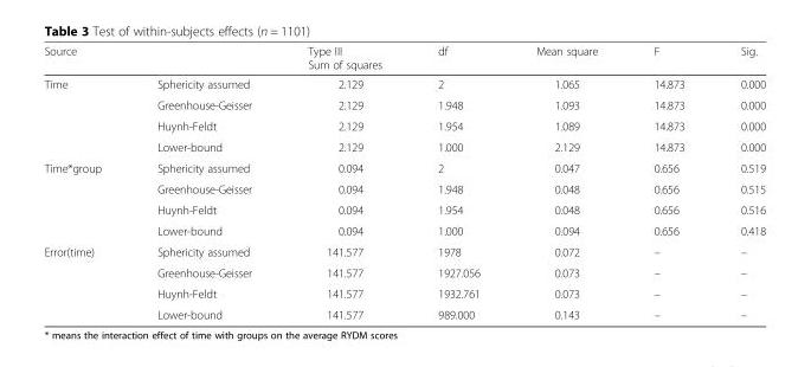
<table><thead><tr><td>Source</td><td></td><td>Type III Sum of squares</td><td>df</td><td>Mean square</td><td>F</td><td>Sig.</td></tr></thead><tbody><tr><td rowspan="4">Time</td><td>Sphericity assumed</td><td>2.129</td><td>2</td><td>1.065</td><td>14.873</td><td>0.000</td></tr><tr><td>Greenhouse-Geisser</td><td>2.129</td><td>1.948</td><td>1.093</td><td>14.873</td><td>0.000</td></tr><tr><td>Huynh-Feldt</td><td>2.129</td><td>1.954</td><td>1.089</td><td>14.873</td><td>0.000</td></tr><tr><td>Lower-bound</td><td>2.129</td><td>1.000</td><td>2.129</td><td>14.873</td><td>0.000</td></tr><tr><td rowspan="4">Time*group</td><td>Sphericity assumed</td><td>0.094</td><td>2</td><td>0.047</td><td>0.656</td><td>0.519</td></tr><tr><td>Greenhouse-Geisser</td><td>0.094</td><td>1.948</td><td>0.048</td><td>0.656</td><td>0.515</td></tr><tr><td>Huynh-Feldt</td><td>0.094</td><td>1.954</td><td>0.048</td><td>0.656</td><td>0.516</td></tr><tr><td>Lower-bound</td><td>0.094</td><td>1.000</td><td>0.094</td><td>0.656</td><td>0.418</td></tr><tr><td rowspan="4">Error(time)</td><td>Sphericity assumed</td><td>141.577</td><td>1978</td><td>0.072</td><td>–</td><td>–</td></tr><tr><td>Greenhouse-Geisser</td><td>141.577</td><td>1927.056</td><td>0.073</td><td>–</td><td>–</td></tr><tr><td>Huynh-Feldt</td><td>141.577</td><td>1932.761</td><td>0.073</td><td>–</td><td>–</td></tr><tr><td>Lower-bound</td><td>141.577</td><td>989.000</td><td>0.143</td><td>–</td><td>–</td></tr></tbody></table>